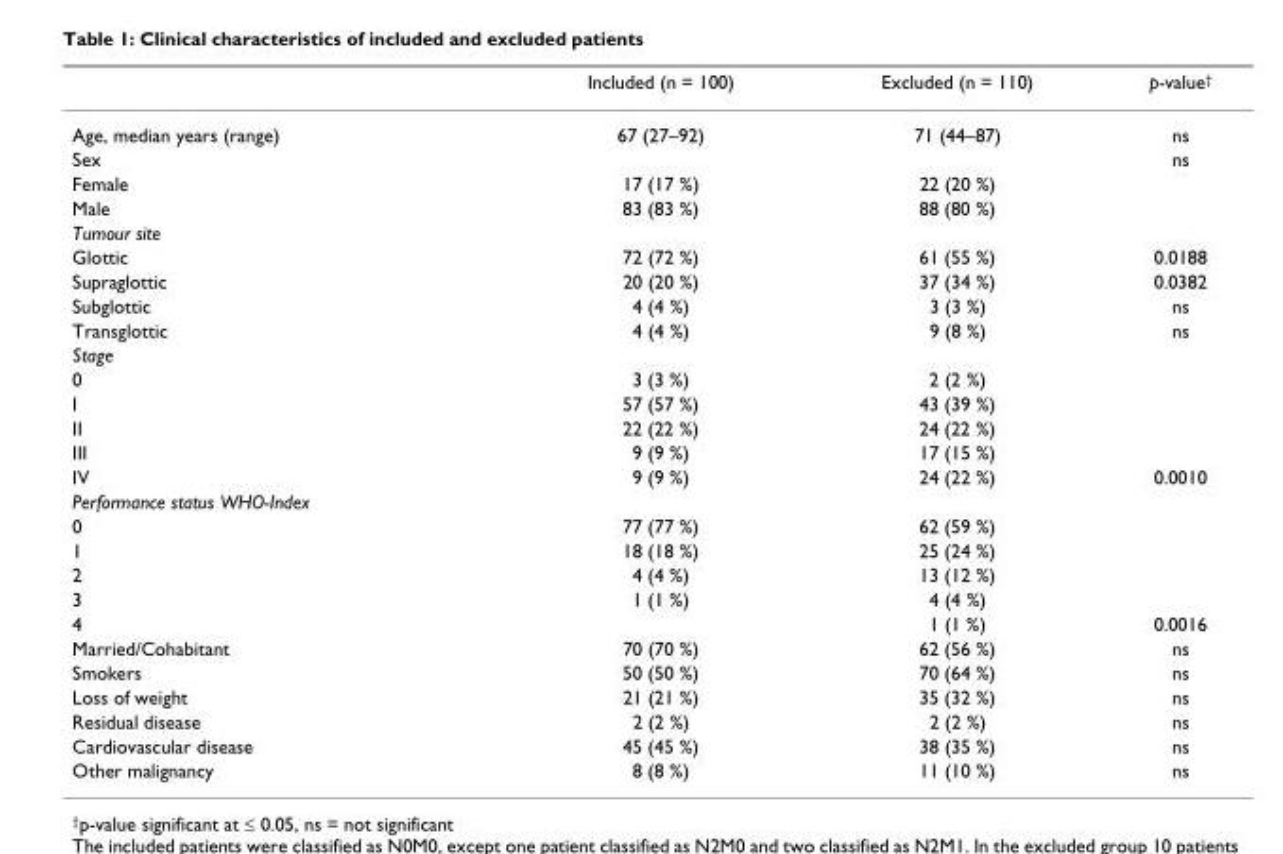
<table><thead><tr><td></td><td>Included (n = 100)</td><td>Excluded (n = 110)</td><td>p-value<sup>†</sup></td></tr></thead><tbody><tr><td>Age, median years (range)</td><td>67 (27–92)</td><td>71 (44–87)</td><td>ns</td></tr><tr><td>Sex</td><td></td><td></td><td>ns</td></tr><tr><td>Female</td><td>17 (17 %)</td><td>22 (20 %)</td><td></td></tr><tr><td>Male</td><td>83 (83 %)</td><td>88 (80 %)</td><td></td></tr><tr><td colspan="4">Tumour site</td></tr><tr><td>Glottic</td><td>72 (72 %)</td><td>61 (55 %)</td><td>0.0188</td></tr><tr><td>Supraglottic</td><td>20 (20 %)</td><td>37 (34 %)</td><td>0.0382</td></tr><tr><td>Subglottic</td><td>4 (4 %)</td><td>3 (3 %)</td><td>ns</td></tr><tr><td>Transglottic</td><td>4 (4 %)</td><td>9 (8 %)</td><td>ns</td></tr><tr><td colspan="4">Stage</td></tr><tr><td>0</td><td>3 (3 %)</td><td>2 (2 %)</td><td></td></tr><tr><td>I</td><td>57 (57 %)</td><td>43 (39 %)</td><td></td></tr><tr><td>II</td><td>22 (22 %)</td><td>24 (22 %)</td><td></td></tr><tr><td>III</td><td>9 (9 %)</td><td>17 (15 %)</td><td></td></tr><tr><td>IV</td><td>9 (9 %)</td><td>24 (22 %)</td><td>0.0010</td></tr><tr><td colspan="4">Performance status WHO-Index</td></tr><tr><td>0</td><td>77 (77 %)</td><td>62 (59 %)</td><td></td></tr><tr><td>1</td><td>18 (18 %)</td><td>25 (24 %)</td><td></td></tr><tr><td>2</td><td>4 (4 %)</td><td>13 (12 %)</td><td></td></tr><tr><td>3</td><td>1 (1 %)</td><td>4 (4 %)</td><td></td></tr><tr><td>4</td><td></td><td>1 (1 %)</td><td>0.0016</td></tr><tr><td>Married/Cohabitant</td><td>70 (70 %)</td><td>62 (56 %)</td><td>ns</td></tr><tr><td>Smokers</td><td>50 (50 %)</td><td>70 (64 %)</td><td>ns</td></tr><tr><td>Loss of weight</td><td>21 (21 %)</td><td>35 (32 %)</td><td>ns</td></tr><tr><td>Residual disease</td><td>2 (2 %)</td><td>2 (2 %)</td><td>ns</td></tr><tr><td>Cardiovascular disease</td><td>45 (45 %)</td><td>38 (35 %)</td><td>ns</td></tr><tr><td>Other malignancy</td><td>8 (8 %)</td><td>11 (10 %)</td><td>ns</td></tr></tbody></table>